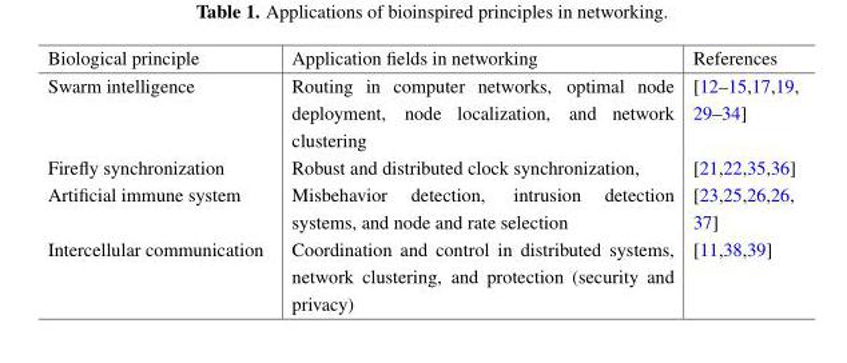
<table><thead><tr><td>Biological principle</td><td>Application fields in networking</td><td>References</td></tr></thead><tbody><tr><td>Swarm intelligence</td><td>Routing in computer networks, optimal node deployment, node localization, and network clustering</td><td>[12–15,17,19, 29–34]</td></tr><tr><td>Firefly synchronization Artificial immune system</td><td>Robust and distributed clock synchronization, Misbehavior detection, intrusion detection systems, and node and rate selection</td><td>[21,22,35,36] [23,25,26,26, 37]</td></tr><tr><td>Intercellular communication</td><td>Coordination and control in distributed systems, network clustering, and protection (security and privacy)</td><td>[11,38,39]</td></tr></tbody></table>